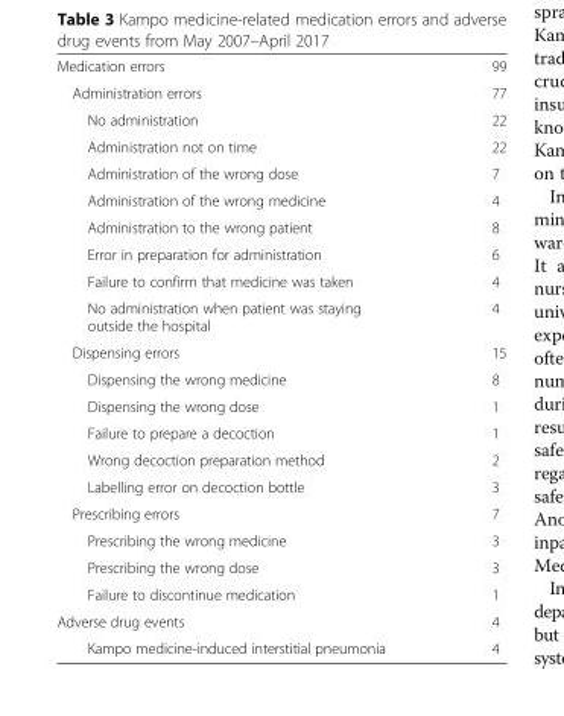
<table><tbody><tr><td>Medication errors</td><td>99</td></tr><tr><td>Administration errors</td><td>77</td></tr><tr><td>No administration</td><td>22</td></tr><tr><td>Administration not on time</td><td>22</td></tr><tr><td>Administration of the wrong dose</td><td>7</td></tr><tr><td>Administration of the wrong medicine</td><td>4</td></tr><tr><td>Administration to the wrong patient</td><td>8</td></tr><tr><td>Error in preparation for administration</td><td>6</td></tr><tr><td>Failure to confirm that medicine was taken</td><td>4</td></tr><tr><td>No administration when patient was staying outside the hospital</td><td>4</td></tr><tr><td>Dispensing errors</td><td>15</td></tr><tr><td>Dispensing the wrong medicine</td><td>8</td></tr><tr><td>Dispensing the wrong dose</td><td>1</td></tr><tr><td>Failure to prepare a decoction</td><td>1</td></tr><tr><td>Wrong decoction preparation method</td><td>2</td></tr><tr><td>Labelling error on decoction bottle</td><td>3</td></tr><tr><td>Prescribing errors</td><td>7</td></tr><tr><td>Prescribing the wrong medicine</td><td>3</td></tr><tr><td>Prescribing the wrong dose</td><td>3</td></tr><tr><td>Failure to discontinue medication</td><td>1</td></tr><tr><td>Adverse drug events</td><td>4</td></tr><tr><td>Kampo medicine-induced interstitial pneumonia</td><td>4</td></tr></tbody></table>